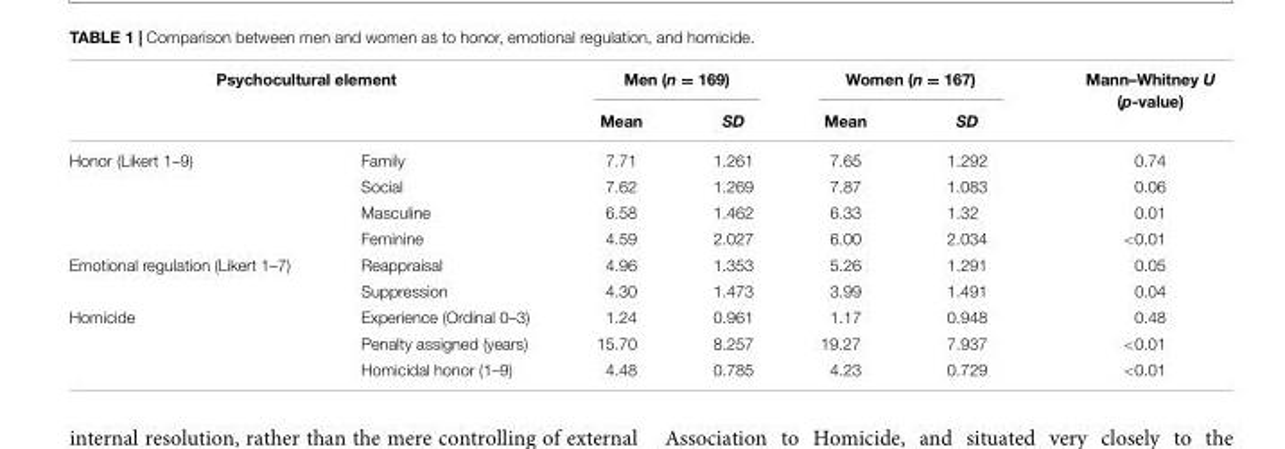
<table><thead><tr><td colspan="2">Psychocultural element</td><td colspan="2">Men (n = 169)</td><td colspan="2">Women (n = 167)</td><td rowspan="2">Mann–Whitney U (p-value)</td></tr><tr><td></td><td></td><td>Mean</td><td>SD</td><td>Mean</td><td>SD</td></tr></thead><tbody><tr><td rowspan="4">Honor (Likert 1–9)</td><td>Family</td><td>7.71</td><td>1.261</td><td>7.65</td><td>1.292</td><td>0.74</td></tr><tr><td>Social</td><td>7.62</td><td>1.269</td><td>7.87</td><td>1.083</td><td>0.06</td></tr><tr><td>Masculine</td><td>6.58</td><td>1.462</td><td>6.33</td><td>1.32</td><td>0.01</td></tr><tr><td>Feminine</td><td>4.59</td><td>2.027</td><td>6.00</td><td>2.034</td><td>&lt;0.01</td></tr><tr><td rowspan="2">Emotional regulation (Likert 1–7)</td><td>Reappraisal</td><td>4.96</td><td>1.353</td><td>5.26</td><td>1.291</td><td>0.05</td></tr><tr><td>Suppression</td><td>4.30</td><td>1.473</td><td>3.99</td><td>1.491</td><td>0.04</td></tr><tr><td rowspan="3">Homicide</td><td>Experience (Ordinal 0–3)</td><td>1.24</td><td>0.961</td><td>1.17</td><td>0.948</td><td>0.48</td></tr><tr><td>Penalty assigned (years)</td><td>15.70</td><td>8.257</td><td>19.27</td><td>7.937</td><td>&lt;0.01</td></tr><tr><td>Homicidal honor (1–9)</td><td>4.48</td><td>0.785</td><td>4.23</td><td>0.729</td><td>&lt;0.01</td></tr></tbody></table>